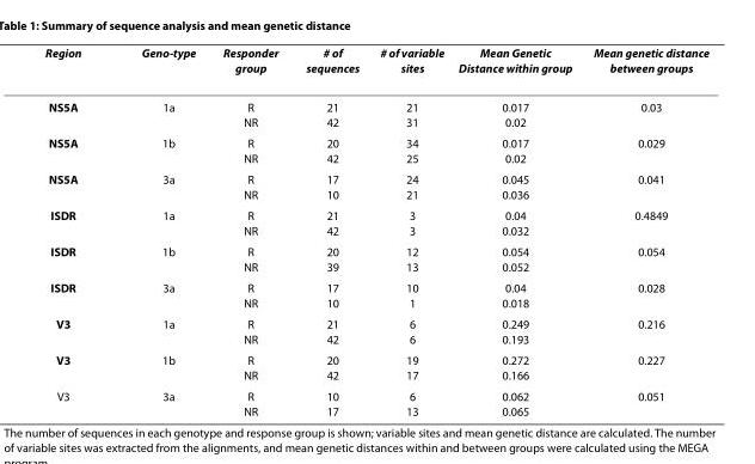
<table><thead><tr><td>Region</td><td>Geno-type</td><td>Responder group</td><td># of sequences</td><td># of variable sites</td><td>Mean Genetic Distance within group</td><td>Mean genetic distance between groups</td></tr></thead><tbody><tr><td>NS5A</td><td>1a</td><td>R NR</td><td>21 42</td><td>21 31</td><td>0.017 0.02</td><td>0.03</td></tr><tr><td>NS5A</td><td>1b</td><td>R NR</td><td>20 42</td><td>34 25</td><td>0.017 0.02</td><td>0.029</td></tr><tr><td>NS5A</td><td>3a</td><td>R NR</td><td>17 10</td><td>24 21</td><td>0.045 0.036</td><td>0.041</td></tr><tr><td>ISDR</td><td>1a</td><td>R NR</td><td>21 42</td><td>3 3</td><td>0.04 0.032</td><td>0.4849</td></tr><tr><td>ISDR</td><td>1b</td><td>R NR</td><td>20 39</td><td>12 13</td><td>0.054 0.052</td><td>0.054</td></tr><tr><td>ISDR</td><td>3a</td><td>R NR</td><td>17 10</td><td>10 1</td><td>0.04 0.018</td><td>0.028</td></tr><tr><td>V3</td><td>1a</td><td>R NR</td><td>21 42</td><td>6 6</td><td>0.249 0.193</td><td>0.216</td></tr><tr><td>V3</td><td>1b</td><td>R NR</td><td>20 42</td><td>19 17</td><td>0.272 0.166</td><td>0.227</td></tr><tr><td>V3</td><td>3a</td><td>R NR</td><td>10 17</td><td>6 13</td><td>0.062 0.065</td><td>0.051</td></tr></tbody></table>